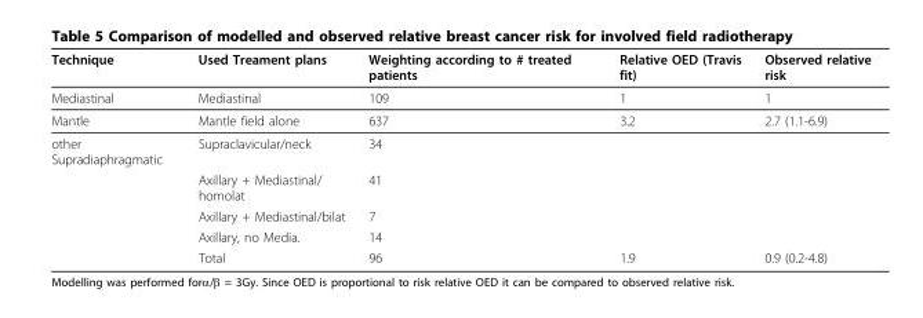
<table><thead><tr><td>Technique</td><td>Used Treament plans</td><td>Weighting according to # treated patients</td><td>Relative OED (Travis fit)</td><td>Observed relative risk</td></tr></thead><tbody><tr><td>Mediastinal</td><td>Mediastinal</td><td>109</td><td>1</td><td>1</td></tr><tr><td>Mantle</td><td>Mantle field alone</td><td>637</td><td>3.2</td><td>2.7 (1.1-6.9)</td></tr><tr><td rowspan="5">other Supradiaphragmatic</td><td>Supraclavicular/neck</td><td>34</td><td></td><td></td></tr><tr><td>Axillary + Mediastinal/ homolat</td><td>41</td><td></td><td></td></tr><tr><td>Axillary + Mediastinal/bilat</td><td>7</td><td></td><td></td></tr><tr><td>Axillary, no Media.</td><td>14</td><td></td><td></td></tr><tr><td>Total</td><td>96</td><td>1.9</td><td>0.9 (0.2-4.8)</td></tr></tbody></table>